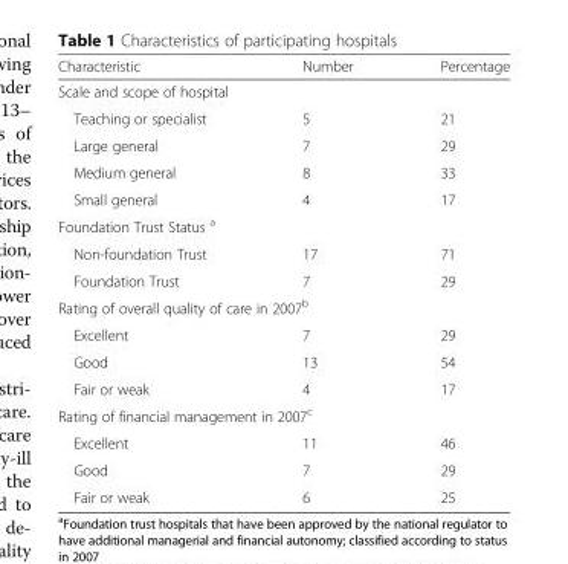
<table><thead><tr><td>Characteristic</td><td>Number</td><td>Percentage</td></tr></thead><tbody><tr><td colspan="3">Scale and scope of hospital</td></tr><tr><td>Teaching or specialist</td><td>5</td><td>21</td></tr><tr><td>Large general</td><td>7</td><td>29</td></tr><tr><td>Medium general</td><td>8</td><td>33</td></tr><tr><td>Small general</td><td>4</td><td>17</td></tr><tr><td colspan="3">Foundation Trust Status <sup>a</sup></td></tr><tr><td>Non-foundation Trust</td><td>17</td><td>71</td></tr><tr><td>Foundation Trust</td><td>7</td><td>29</td></tr><tr><td colspan="3">Rating of overall quality of care in 2007<sup>b</sup></td></tr><tr><td>Excellent</td><td>7</td><td>29</td></tr><tr><td>Good</td><td>13</td><td>54</td></tr><tr><td>Fair or weak</td><td>4</td><td>17</td></tr><tr><td colspan="3">Rating of financial management in 2007<sup>c</sup></td></tr><tr><td>Excellent</td><td>11</td><td>46</td></tr><tr><td>Good</td><td>7</td><td>29</td></tr><tr><td>Fair or weak</td><td>6</td><td>25</td></tr></tbody></table>